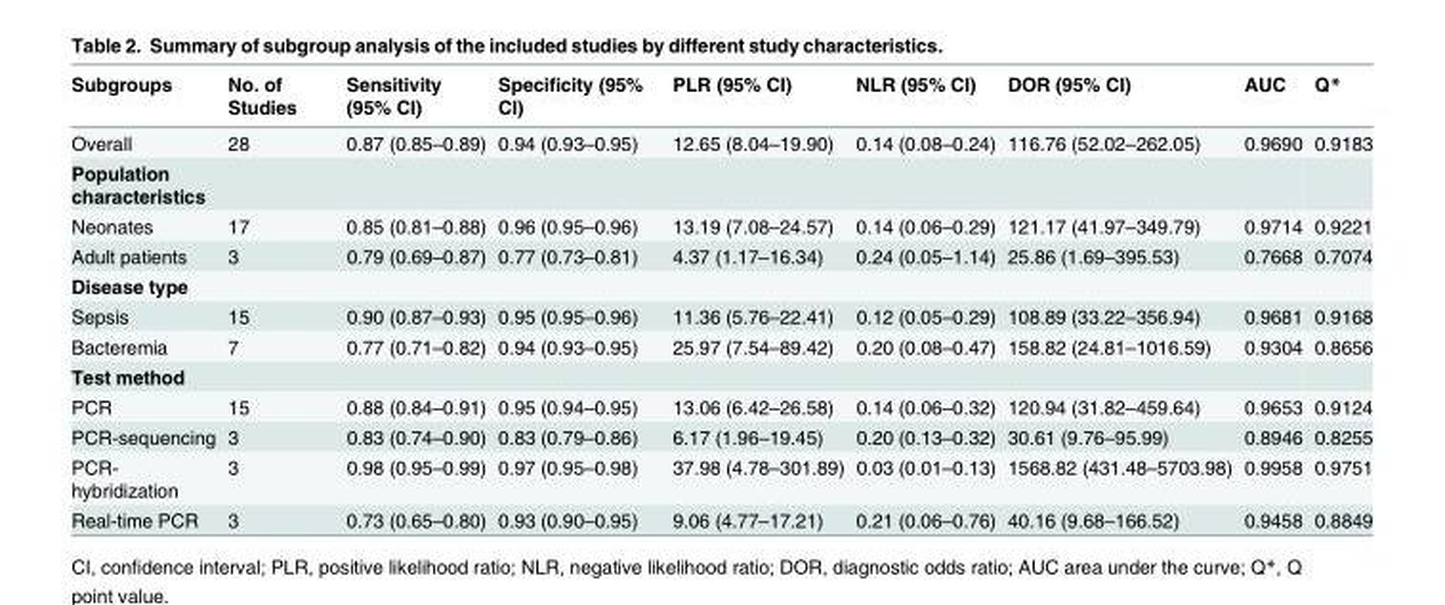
<table><thead><tr><td>Subgroups</td><td>No. of Studies</td><td>Sensitivity (95% CI)</td><td>Specificity (95% CI)</td><td>PLR (95% CI)</td><td>NLR (95% CI)</td><td>DOR (95% CI)</td><td>AUC</td><td>Q*</td></tr></thead><tbody><tr><td>Overall</td><td>28</td><td>0.87 (0.85–0.89)</td><td>0.94 (0.93–0.95)</td><td>12.65 (8.04–19.90)</td><td>0.14 (0.08–0.24)</td><td>116.76 (52.02–262.05)</td><td>0.9690</td><td>0.9183</td></tr><tr><td colspan="9">Population characteristics</td></tr><tr><td>Neonates</td><td>17</td><td>0.85 (0.81–0.88)</td><td>0.96 (0.95–0.96)</td><td>13.19 (7.08–24.57)</td><td>0.14 (0.06–0.29)</td><td>121.17 (41.97–349.79)</td><td>0.9714</td><td>0.9221</td></tr><tr><td>Adult patients</td><td>3</td><td>0.79 (0.69–0.87)</td><td>0.77 (0.73–0.81)</td><td>4.37 (1.17–16.34)</td><td>0.24 (0.05–1.14)</td><td>25.86 (1.69–395.53)</td><td>0.7668</td><td>0.7074</td></tr><tr><td colspan="9">Disease type</td></tr><tr><td>Sepsis</td><td>15</td><td>0.90 (0.87–0.93)</td><td>0.95 (0.95–0.96)</td><td>11.36 (5.76–22.41)</td><td>0.12 (0.05–0.29)</td><td>108.89 (33.22–356.94)</td><td>0.9681</td><td>0.9168</td></tr><tr><td>Bacteremia</td><td>7</td><td>0.77 (0.71–0.82)</td><td>0.94 (0.93–0.95)</td><td>25.97 (7.54–89.42)</td><td>0.20 (0.08–0.47)</td><td>158.82 (24.81–1016.59)</td><td>0.9304</td><td>0.8656</td></tr><tr><td colspan="9">Test method</td></tr><tr><td>PCR</td><td>15</td><td>0.88 (0.84–0.91)</td><td>0.95 (0.94–0.95)</td><td>13.06 (6.42–26.58)</td><td>0.14 (0.06–0.32)</td><td>120.94 (31.82–459.64)</td><td>0.9653</td><td>0.9124</td></tr><tr><td>PCR-sequencing</td><td>3</td><td>0.83 (0.74–0.90)</td><td>0.83 (0.79–0.86)</td><td>6.17 (1.96–19.45)</td><td>0.20 (0.13–0.32)</td><td>30.61 (9.76–95.99)</td><td>0.8946</td><td>0.8255</td></tr><tr><td>PCR- hybridization</td><td>3</td><td>0.98 (0.95–0.99)</td><td>0.97 (0.95–0.98)</td><td>37.98 (4.78–301.89)</td><td>0.03 (0.01–0.13)</td><td>1568.82 (431.48–5703.98)</td><td>0.9958</td><td>0.9751</td></tr><tr><td>Real-time PCR</td><td>3</td><td>0.73 (0.65–0.80)</td><td>0.93 (0.90–0.95)</td><td>9.06 (4.77–17.21)</td><td>0.21 (0.06–0.76)</td><td>40.16 (9.68–166.52)</td><td>0.9458</td><td>0.8849</td></tr></tbody></table>